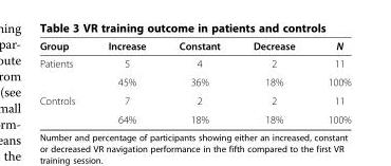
<table><thead><tr><td>Group</td><td>Increase</td><td>Constant</td><td>Decrease</td><td>N</td></tr></thead><tbody><tr><td rowspan="2">Patients</td><td>5</td><td>4</td><td>2</td><td>11</td></tr><tr><td>45%</td><td>36%</td><td>18%</td><td>100%</td></tr><tr><td rowspan="2">Controls</td><td>7</td><td>2</td><td>2</td><td>11</td></tr><tr><td>64%</td><td>18%</td><td>18%</td><td>100%</td></tr></tbody></table>